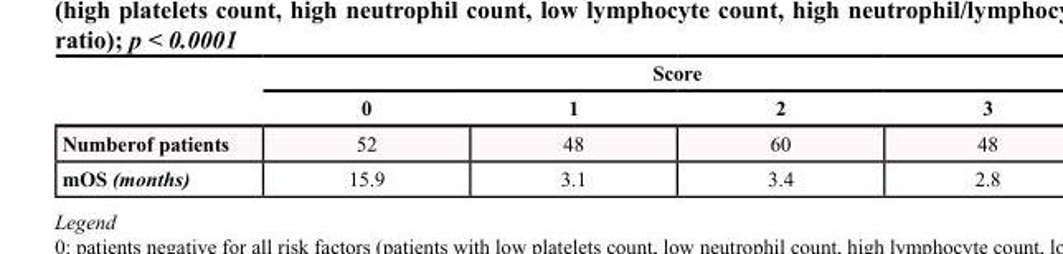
<table><thead><tr><td rowspan="2"></td><td colspan="4">Score</td></tr><tr><td>0</td><td>1</td><td>2</td><td>3</td></tr></thead><tbody><tr><td>Numberof patients</td><td>52</td><td>48</td><td>60</td><td>48</td></tr><tr><td>mOS (months)</td><td>15.9</td><td>3.1</td><td>3.4</td><td>2.8</td></tr></tbody></table>